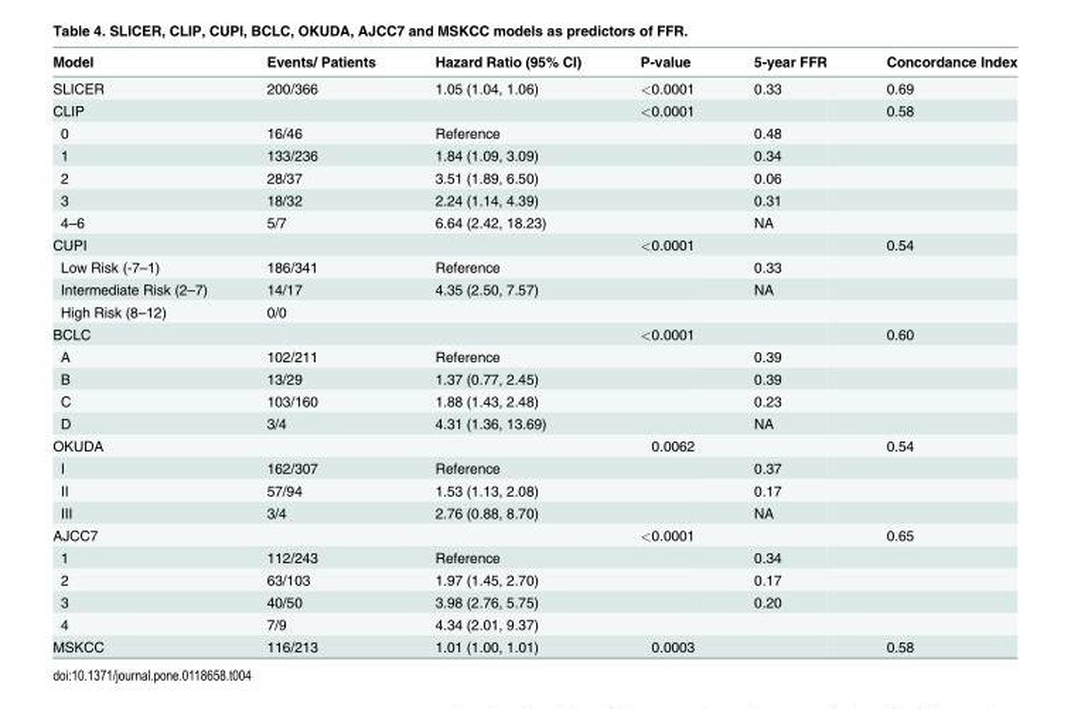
<table><thead><tr><td>Model</td><td>Events/ Patients</td><td>Hazard Ratio (95% CI)</td><td>P-value</td><td>5-year FFR</td><td>Concordance Index</td></tr></thead><tbody><tr><td>SLICER</td><td>200/366</td><td>1.05 (1.04, 1.06)</td><td>&lt;0.0001</td><td>0.33</td><td>0.69</td></tr><tr><td>CLIP</td><td></td><td></td><td>&lt;0.0001</td><td></td><td>0.58</td></tr><tr><td>0</td><td>16/46</td><td>Reference</td><td></td><td>0.48</td><td></td></tr><tr><td>1</td><td>133/236</td><td>1.84 (1.09, 3.09)</td><td></td><td>0.34</td><td></td></tr><tr><td>2</td><td>28/37</td><td>3.51 (1.89, 6.50)</td><td></td><td>0.06</td><td></td></tr><tr><td>3</td><td>18/32</td><td>2.24 (1.14, 4.39)</td><td></td><td>0.31</td><td></td></tr><tr><td>4–6</td><td>5/7</td><td>6.64 (2.42, 18.23)</td><td></td><td>NA</td><td></td></tr><tr><td>CUPI</td><td></td><td></td><td>&lt;0.0001</td><td></td><td>0.54</td></tr><tr><td>Low Risk (-7–1)</td><td>186/341</td><td>Reference</td><td></td><td>0.33</td><td></td></tr><tr><td>Intermediate Risk (2–7)</td><td>14/17</td><td>4.35 (2.50, 7.57)</td><td></td><td>NA</td><td></td></tr><tr><td>High Risk (8–12)</td><td>0/0</td><td></td><td></td><td></td><td></td></tr><tr><td>BCLC</td><td></td><td></td><td>&lt;0.0001</td><td></td><td>0.60</td></tr><tr><td>A</td><td>102/211</td><td>Reference</td><td></td><td>0.39</td><td></td></tr><tr><td>B</td><td>13/29</td><td>1.37 (0.77, 2.45)</td><td></td><td>0.39</td><td></td></tr><tr><td>C</td><td>103/160</td><td>1.88 (1.43, 2.48)</td><td></td><td>0.23</td><td></td></tr><tr><td>D</td><td>3/4</td><td>4.31 (1.36, 13.69)</td><td></td><td>NA</td><td></td></tr><tr><td>OKUDA</td><td></td><td></td><td>0.0062</td><td></td><td>0.54</td></tr><tr><td>I</td><td>162/307</td><td>Reference</td><td></td><td>0.37</td><td></td></tr><tr><td>II</td><td>57/94</td><td>1.53 (1.13, 2.08)</td><td></td><td>0.17</td><td></td></tr><tr><td>III</td><td>3/4</td><td>2.76 (0.88, 8.70)</td><td></td><td>NA</td><td></td></tr><tr><td>AJCC7</td><td></td><td></td><td>&lt;0.0001</td><td></td><td>0.65</td></tr><tr><td>1</td><td>112/243</td><td>Reference</td><td></td><td>0.34</td><td></td></tr><tr><td>2</td><td>63/103</td><td>1.97 (1.45, 2.70)</td><td></td><td>0.17</td><td></td></tr><tr><td>3</td><td>40/50</td><td>3.98 (2.76, 5.75)</td><td></td><td>0.20</td><td></td></tr><tr><td>4</td><td>7/9</td><td>4.34 (2.01, 9.37)</td><td></td><td></td><td></td></tr><tr><td>MSKCC</td><td>116/213</td><td>1.01 (1.00, 1.01)</td><td>0.0003</td><td></td><td>0.58</td></tr></tbody></table>